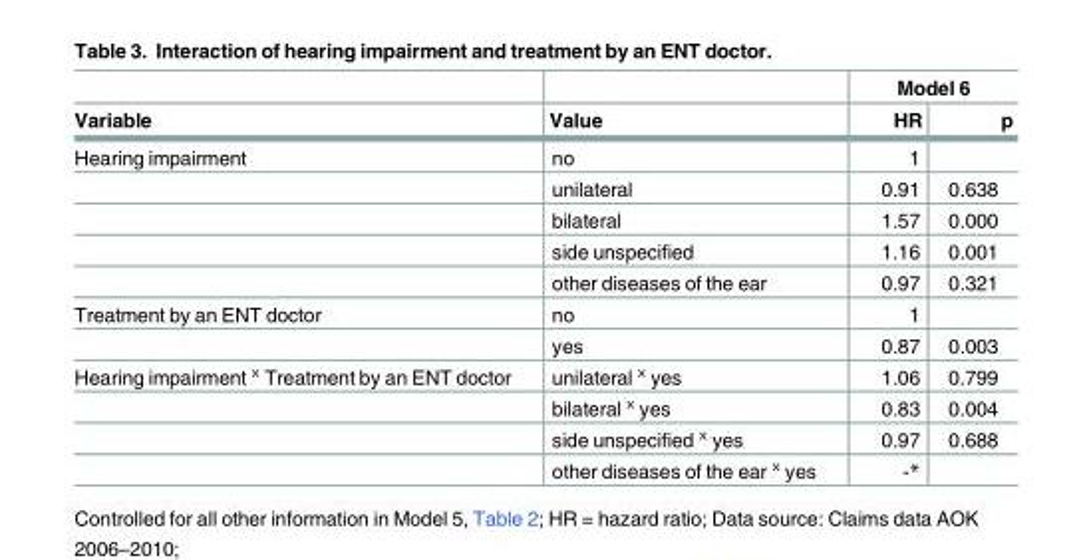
<table><thead><tr><td rowspan="2">Variable</td><td rowspan="2">Value</td><td colspan="2">Model 6</td></tr><tr><td>HR</td><td>p</td></tr></thead><tbody><tr><td rowspan="5">Hearing impairment</td><td>no</td><td>1</td><td></td></tr><tr><td>unilateral</td><td>0.91</td><td>0.638</td></tr><tr><td>bilateral</td><td>1.57</td><td>0.000</td></tr><tr><td>side unspecified</td><td>1.16</td><td>0.001</td></tr><tr><td>other diseases of the ear</td><td>0.97</td><td>0.321</td></tr><tr><td rowspan="2">Treatment by an ENT doctor</td><td>no</td><td>1</td><td></td></tr><tr><td>yes</td><td>0.87</td><td>0.003</td></tr><tr><td rowspan="4">Hearing impairment ˣ Treatment by an ENT doctor</td><td>unilateral ˣ yes</td><td>1.06</td><td>0.799</td></tr><tr><td>bilateral ˣ yes</td><td>0.83</td><td>0.004</td></tr><tr><td>side unspecified ˣ yes</td><td>0.97</td><td>0.688</td></tr><tr><td>other diseases of the ear ˣ yes</td><td>-*</td><td></td></tr></tbody></table>